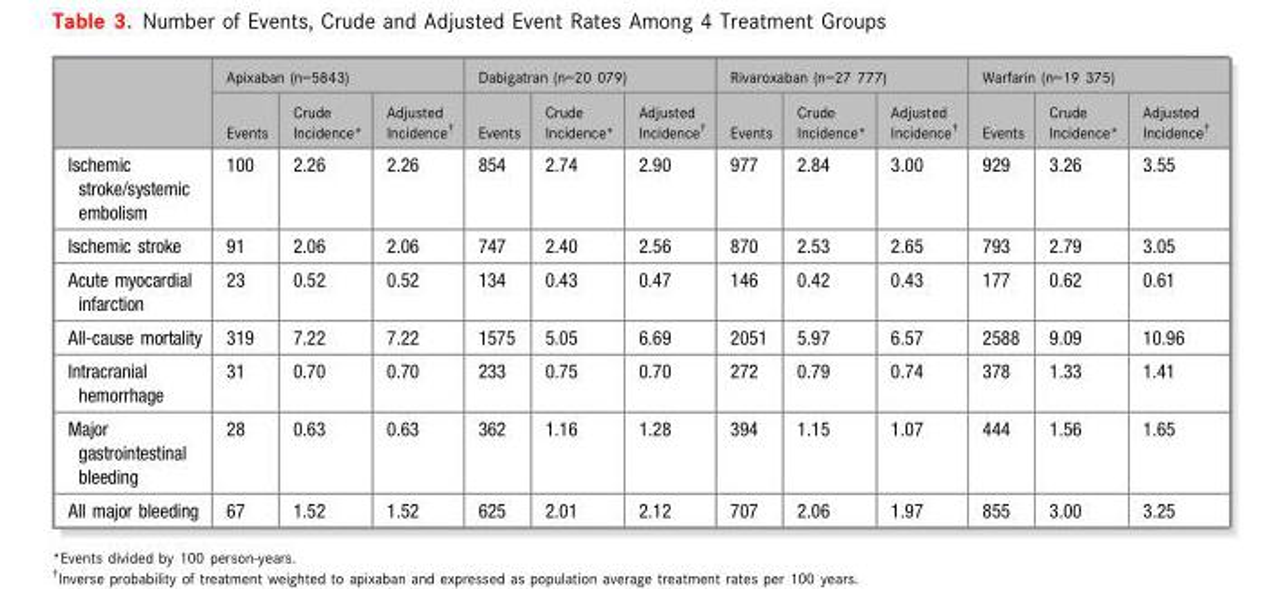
<table><thead><tr><td rowspan="2"></td><td colspan="3">Apixaban (n=5843)</td><td colspan="3">Dabigatran (n=20 079)</td><td colspan="3">Rivaroxaban (n=27 777)</td><td colspan="3">Warfarin (n=19 375)</td></tr><tr><td>Events</td><td>Crude Incidence*</td><td>Adjusted Incidence†</td><td>Events</td><td>Crude Incidence*</td><td>Adjusted Incidence†</td><td>Events</td><td>Crude Incidence*</td><td>Adjusted Incidence†</td><td>Events</td><td>Crude Incidence*</td><td>Adjusted Incidence†</td></tr></thead><tbody><tr><td>Ischemic stroke/systemic embolism</td><td>100</td><td>2.26</td><td>2.26</td><td>854</td><td>2.74</td><td>2.90</td><td>977</td><td>2.84</td><td>3.00</td><td>929</td><td>3.26</td><td>3.55</td></tr><tr><td>Ischemic stroke</td><td>91</td><td>2.06</td><td>2.06</td><td>747</td><td>2.40</td><td>2.56</td><td>870</td><td>2.53</td><td>2.65</td><td>793</td><td>2.79</td><td>3.05</td></tr><tr><td>Acute myocardial infarction</td><td>23</td><td>0.52</td><td>0.52</td><td>134</td><td>0.43</td><td>0.47</td><td>146</td><td>0.42</td><td>0.43</td><td>177</td><td>0.62</td><td>0.61</td></tr><tr><td>All-cause mortality</td><td>319</td><td>7.22</td><td>7.22</td><td>1575</td><td>5.05</td><td>6.69</td><td>2051</td><td>5.97</td><td>6.57</td><td>2588</td><td>9.09</td><td>10.96</td></tr><tr><td>Intracranial hemorrhage</td><td>31</td><td>0.70</td><td>0.70</td><td>233</td><td>0.75</td><td>0.70</td><td>272</td><td>0.79</td><td>0.74</td><td>378</td><td>1.33</td><td>1.41</td></tr><tr><td>Major gastrointestinal bleeding</td><td>28</td><td>0.63</td><td>0.63</td><td>362</td><td>1.16</td><td>1.28</td><td>394</td><td>1.15</td><td>1.07</td><td>444</td><td>1.56</td><td>1.65</td></tr><tr><td>All major bleeding</td><td>67</td><td>1.52</td><td>1.52</td><td>625</td><td>2.01</td><td>2.12</td><td>707</td><td>2.06</td><td>1.97</td><td>855</td><td>3.00</td><td>3.25</td></tr></tbody></table>